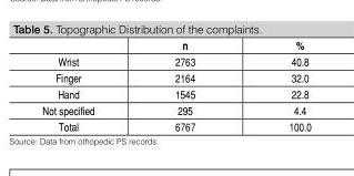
<table><thead><tr><td></td><td>n</td><td>%</td></tr></thead><tbody><tr><td>Wrist</td><td>2763</td><td>40.8</td></tr><tr><td>Finger</td><td>2164</td><td>32.0</td></tr><tr><td>Hand</td><td>1545</td><td>22.8</td></tr><tr><td>Not specified</td><td>295</td><td>4.4</td></tr><tr><td>Total</td><td>6767</td><td>100.0</td></tr></tbody></table>